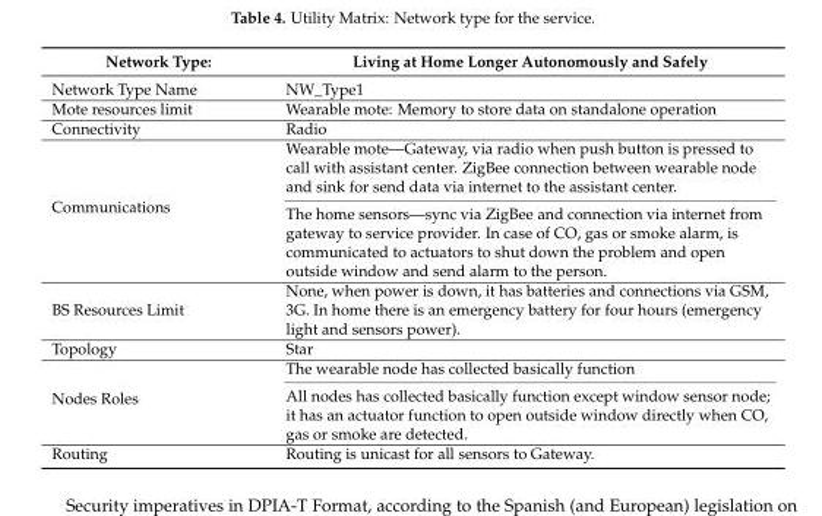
<table><thead><tr><td>Network Type:</td><td>Living at Home Longer Autonomously and Safely</td></tr></thead><tbody><tr><td>Network Type Name</td><td>NW_Type1</td></tr><tr><td>Mote resources limit</td><td>Wearable mote: Memory to store data on standalone operation</td></tr><tr><td>Connectivity</td><td>Radio</td></tr><tr><td rowspan="2">Communications</td><td>Wearable mote—Gateway, via radio when push button is pressed to call with assistant center. ZigBee connection between wearable node and sink for send data via internet to the assistant center.</td></tr><tr><td>The home sensors—sync via ZigBee and connection via internet from gateway to service provider. In case of CO, gas or smoke alarm, is communicated to actuators to shut down the problem and open outside window and send alarm to the person.</td></tr><tr><td>BS Resources Limit</td><td>None, when power is down, it has batteries and connections via GSM, 3G. In home there is an emergency battery for four hours (emergency light and sensors power).</td></tr><tr><td>Topology</td><td>Star</td></tr><tr><td rowspan="2">Nodes Roles</td><td>The wearable node has collected basically function</td></tr><tr><td>All nodes has collected basically function except window sensor node; it has an actuator function to open outside window directly when CO, gas or smoke are detected.</td></tr><tr><td>Routing</td><td>Routing is unicast for all sensors to Gateway.</td></tr></tbody></table>